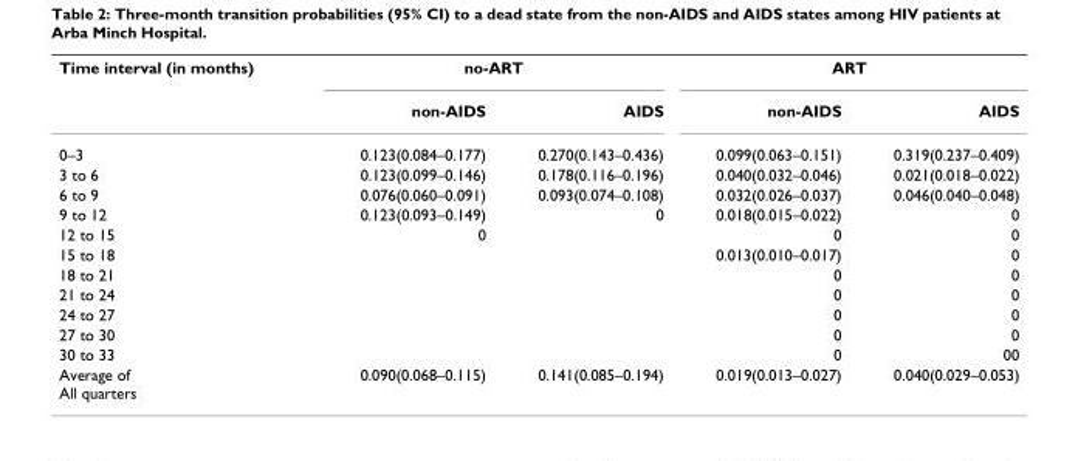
<table><tbody><tr><td rowspan="2">Time interval (in months)</td><td colspan="2">no-ART</td><td colspan="2">ART</td></tr><tr><td>non-AIDS</td><td>AIDS</td><td>non-AIDS</td><td>AIDS</td></tr><tr><td>0–3</td><td>0.123(0.084–0.177)</td><td>0.270(0.143–0.436)</td><td>0.099(0.063–0.151)</td><td>0.319(0.237–0.409)</td></tr><tr><td>3 to 6</td><td>0.123(0.099–0.146)</td><td>0.178(0.116–0.196)</td><td>0.040(0.032–0.046)</td><td>0.021(0.018–0.022)</td></tr><tr><td>6 to 9</td><td>0.076(0.060–0.091)</td><td>0.093(0.074–0.108)</td><td>0.032(0.026–0.037)</td><td>0.046(0.040–0.048)</td></tr><tr><td>9 to 12</td><td>0.123(0.093–0.149)</td><td>0</td><td>0.018(0.015–0.022)</td><td>0</td></tr><tr><td>12 to 15</td><td>0</td><td></td><td>0</td><td>0</td></tr><tr><td>15 to 18</td><td></td><td></td><td>0.013(0.010–0.017)</td><td>0</td></tr><tr><td>18 to 21</td><td></td><td></td><td>0</td><td>0</td></tr><tr><td>21 to 24</td><td></td><td></td><td>0</td><td>0</td></tr><tr><td>24 to 27</td><td></td><td></td><td>0</td><td>0</td></tr><tr><td>27 to 30</td><td></td><td></td><td>0</td><td>0</td></tr><tr><td>30 to 33</td><td></td><td></td><td>0</td><td>00</td></tr><tr><td>Average of All quarters</td><td>0.090(0.068–0.115)</td><td>0.141(0.085–0.194)</td><td>0.019(0.013–0.027)</td><td>0.040(0.029–0.053)</td></tr></tbody></table>